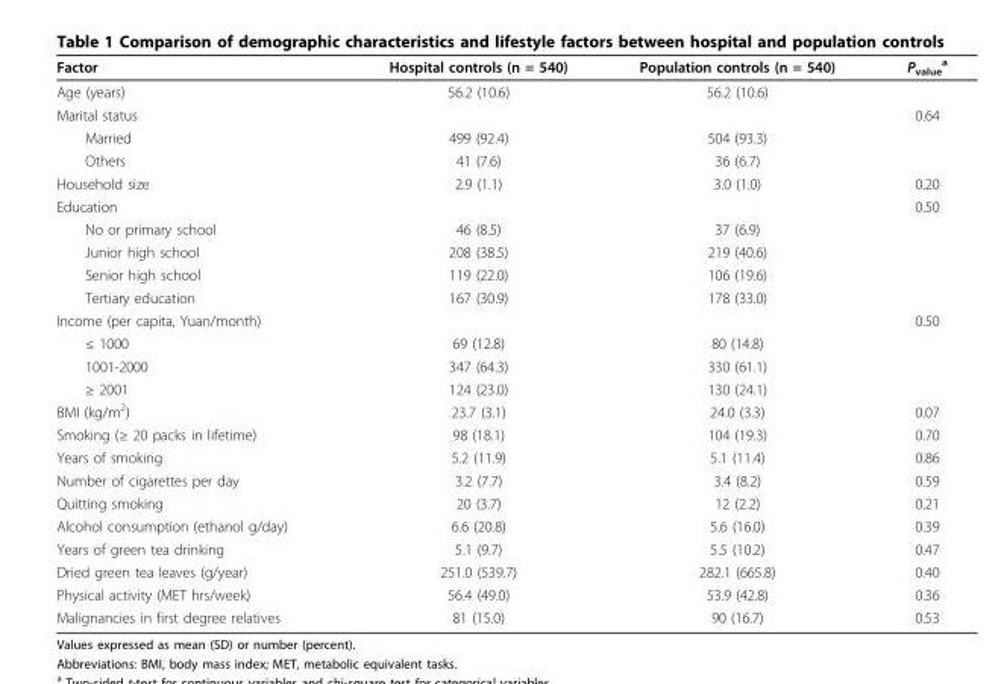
<table><thead><tr><td>Factor</td><td>Hospital controls (n = 540)</td><td>Population controls (n = 540)</td><td>P<sub>value</sub> <sup>a</sup></td></tr></thead><tbody><tr><td>Age (years)</td><td>56.2 (10.6)</td><td>56.2 (10.6)</td><td></td></tr><tr><td>Marital status</td><td></td><td></td><td>0.64</td></tr><tr><td>Married</td><td>499 (92.4)</td><td>504 (93.3)</td><td></td></tr><tr><td>Others</td><td>41 (7.6)</td><td>36 (6.7)</td><td></td></tr><tr><td>Household size</td><td>2.9 (1.1)</td><td>3.0 (1.0)</td><td>0.20</td></tr><tr><td>Education</td><td></td><td></td><td>0.50</td></tr><tr><td>No or primary school</td><td>46 (8.5)</td><td>37 (6.9)</td><td></td></tr><tr><td>Junior high school</td><td>208 (38.5)</td><td>219 (40.6)</td><td></td></tr><tr><td>Senior high school</td><td>119 (22.0)</td><td>106 (19.6)</td><td></td></tr><tr><td>Tertiary education</td><td>167 (30.9)</td><td>178 (33.0)</td><td></td></tr><tr><td>Income (per capita, Yuan/month)</td><td></td><td></td><td>0.50</td></tr><tr><td>≤ 1000</td><td>69 (12.8)</td><td>80 (14.8)</td><td></td></tr><tr><td>1001-2000</td><td>347 (64.3)</td><td>330 (61.1)</td><td></td></tr><tr><td>≥ 2001</td><td>124 (23.0)</td><td>130 (24.1)</td><td></td></tr><tr><td>BMI (kg/m<sup>2</sup>)</td><td>23.7 (3.1)</td><td>24.0 (3.3)</td><td>0.07</td></tr><tr><td>Smoking (≥ 20 packs in lifetime)</td><td>98 (18.1)</td><td>104 (19.3)</td><td>0.70</td></tr><tr><td>Years of smoking</td><td>5.2 (11.9)</td><td>5.1 (11.4)</td><td>0.86</td></tr><tr><td>Number of cigarettes per day</td><td>3.2 (7.7)</td><td>3.4 (8.2)</td><td>0.59</td></tr><tr><td>Quitting smoking</td><td>20 (3.7)</td><td>12 (2.2)</td><td>0.21</td></tr><tr><td>Alcohol consumption (ethanol g/day)</td><td>6.6 (20.8)</td><td>5.6 (16.0)</td><td>0.39</td></tr><tr><td>Years of green tea drinking</td><td>5.1 (9.7)</td><td>5.5 (10.2)</td><td>0.47</td></tr><tr><td>Dried green tea leaves (g/year)</td><td>251.0 (539.7)</td><td>282.1 (665.8)</td><td>0.40</td></tr><tr><td>Physical activity (MET hrs/week)</td><td>56.4 (49.0)</td><td>53.9 (42.8)</td><td>0.36</td></tr><tr><td>Malignancies in first degree relatives</td><td>81 (15.0)</td><td>90 (16.7)</td><td>0.53</td></tr></tbody></table>